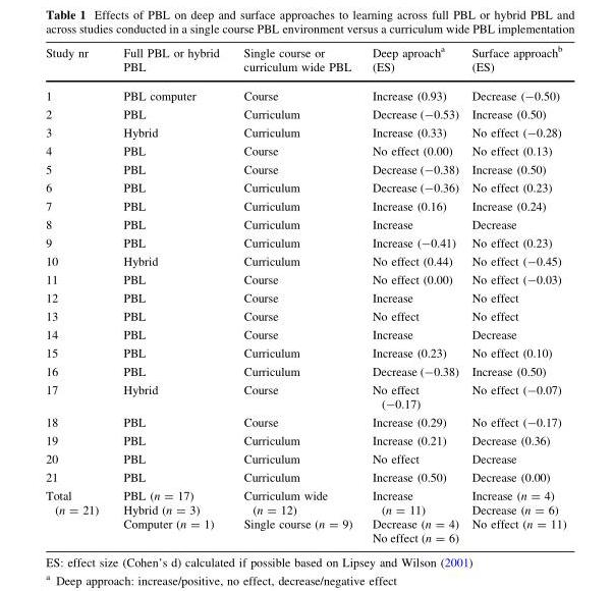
<table><thead><tr><td>Study nr</td><td>Full PBL or hybrid PBL</td><td>Single course or curriculum wide PBL</td><td>Deep aproach<sup>a</sup> (ES)</td><td>Surface approach<sup>b</sup> (ES)</td></tr></thead><tbody><tr><td>1</td><td>PBL computer</td><td>Course</td><td>Increase (0.93)</td><td>Decrease (-0.50)</td></tr><tr><td>2</td><td>PBL</td><td>Curriculum</td><td>Decrease (-0.53)</td><td>Increase (0.50)</td></tr><tr><td>3</td><td>Hybrid</td><td>Curriculum</td><td>Increase (0.33)</td><td>No effect (-0.28)</td></tr><tr><td>4</td><td>PBL</td><td>Course</td><td>No effect (0.00)</td><td>No effect (0.13)</td></tr><tr><td>5</td><td>PBL</td><td>Course</td><td>Decrease (-0.38)</td><td>Increase (0.50)</td></tr><tr><td>6</td><td>PBL</td><td>Curriculum</td><td>Decrease (-0.36)</td><td>No effect (0.23)</td></tr><tr><td>7</td><td>PBL</td><td>Curriculum</td><td>Increase (0.16)</td><td>Increase (0.24)</td></tr><tr><td>8</td><td>PBL</td><td>Curriculum</td><td>Increase</td><td>Decrease</td></tr><tr><td>9</td><td>PBL</td><td>Curriculum</td><td>Increase (-0.41)</td><td>No effect (0.23)</td></tr><tr><td>10</td><td>Hybrid</td><td>Curriculum</td><td>No effect (0.44)</td><td>No effect (-0.45)</td></tr><tr><td>11</td><td>PBL</td><td>Course</td><td>No effect (0.00)</td><td>No effect (-0.03)</td></tr><tr><td>12</td><td>PBL</td><td>Course</td><td>Increase</td><td>No effect</td></tr><tr><td>13</td><td>PBL</td><td>Course</td><td>No effect</td><td>No effect</td></tr><tr><td>14</td><td>PBL</td><td>Course</td><td>Increase</td><td>Decrease</td></tr><tr><td>15</td><td>PBL</td><td>Curriculum</td><td>Increase (0.23)</td><td>No effect (0.10)</td></tr><tr><td>16</td><td>PBL</td><td>Curriculum</td><td>Decrease (-0.38)</td><td>Increase (0.50)</td></tr><tr><td>17</td><td>Hybrid</td><td>Course</td><td>No effect (-0.17)</td><td>No effect (-0.07)</td></tr><tr><td>18</td><td>PBL</td><td>Course</td><td>Increase (0.29)</td><td>No effect (-0.17)</td></tr><tr><td>19</td><td>PBL</td><td>Curriculum</td><td>Increase (0.21)</td><td>Decrease (0.36)</td></tr><tr><td>20</td><td>PBL</td><td>Curriculum</td><td>No effect</td><td>Decrease</td></tr><tr><td>21</td><td>PBL</td><td>Curriculum</td><td>Increase (0.50)</td><td>Decrease (0.00)</td></tr><tr><td>Total (n = 21)</td><td>PBL (n = 17) Hybrid (n = 3) Computer (n = 1)</td><td>Curriculum wide (n = 12) Single course (n = 9)</td><td>Increase (n = 11) Decrease (n = 4) No effect (n = 6)</td><td>Increase (n = 4) Decrease (n = 6) No effect (n = 11)</td></tr></tbody></table>